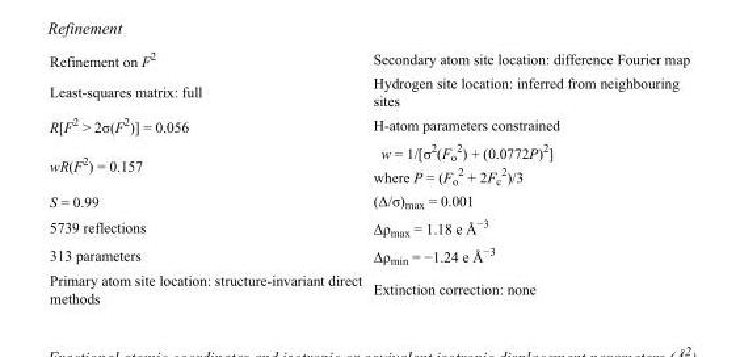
<table><tbody><tr><td>Refinement on F<sup>2</sup></td><td>Secondary atom site location: difference Fourier map</td></tr><tr><td>Least-squares matrix: full</td><td>Hydrogen site location: inferred from neighbouring sites</td></tr><tr><td>R[F<sup>2</sup> &gt; 2σ(F<sup>2</sup>)] = 0.056</td><td>H-atom parameters constrained</td></tr><tr><td>wR(F<sup>2</sup>) = 0.157</td><td>w = 1/[σ<sup>2</sup>(F<sub>o</sub> <sup>2</sup>) + (0.0772P)<sup>2</sup>] where P = (F<sub>o</sub> <sup>2</sup> + 2F<sub>c</sub> <sup>2</sup>)/3</td></tr><tr><td>S = 0.99</td><td>(Δ/σ)<sub>max</sub> = 0.001</td></tr><tr><td>5739 reflections</td><td>Δρ<sub>max</sub> = 1.18 e Å<sup>−3</sup></td></tr><tr><td>313 parameters</td><td>Δρ<sub>min</sub> = −1.24 e Å<sup>−3</sup></td></tr><tr><td>Primary atom site location: structure-invariant direct methods</td><td>Extinction correction: none</td></tr></tbody></table>